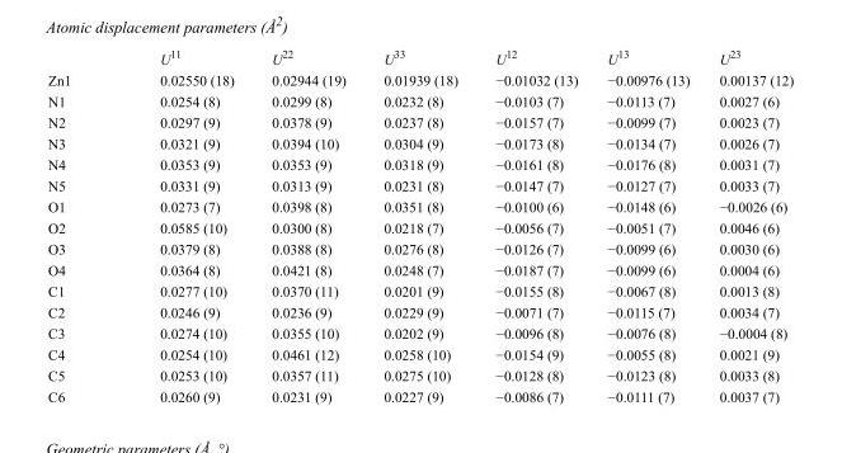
<table><thead><tr><td></td><td>U<sup>11</sup></td><td>U<sup>22</sup></td><td>U<sup>33</sup></td><td>U<sup>12</sup></td><td>U<sup>13</sup></td><td>U<sup>23</sup></td></tr></thead><tbody><tr><td>Zn1</td><td>0.02550 (18)</td><td>0.02944 (19)</td><td>0.01939 (18)</td><td>−0.01032 (13)</td><td>−0.00976 (13)</td><td>0.00137 (12)</td></tr><tr><td>N1</td><td>0.0254 (8)</td><td>0.0299 (8)</td><td>0.0232 (8)</td><td>−0.0103 (7)</td><td>−0.0113 (7)</td><td>0.0027 (6)</td></tr><tr><td>N2</td><td>0.0297 (9)</td><td>0.0378 (9)</td><td>0.0237 (8)</td><td>−0.0157 (7)</td><td>−0.0099 (7)</td><td>0.0023 (7)</td></tr><tr><td>N3</td><td>0.0321 (9)</td><td>0.0394 (10)</td><td>0.0304 (9)</td><td>−0.0173 (8)</td><td>−0.0134 (7)</td><td>0.0026 (7)</td></tr><tr><td>N4</td><td>0.0353 (9)</td><td>0.0353 (9)</td><td>0.0318 (9)</td><td>−0.0161 (8)</td><td>−0.0176 (8)</td><td>0.0031 (7)</td></tr><tr><td>N5</td><td>0.0331 (9)</td><td>0.0313 (9)</td><td>0.0231 (8)</td><td>−0.0147 (7)</td><td>−0.0127 (7)</td><td>0.0033 (7)</td></tr><tr><td>O1</td><td>0.0273 (7)</td><td>0.0398 (8)</td><td>0.0351 (8)</td><td>−0.0100 (6)</td><td>−0.0148 (6)</td><td>−0.0026 (6)</td></tr><tr><td>O2</td><td>0.0585 (10)</td><td>0.0300 (8)</td><td>0.0218 (7)</td><td>−0.0056 (7)</td><td>−0.0051 (7)</td><td>0.0046 (6)</td></tr><tr><td>O3</td><td>0.0379 (8)</td><td>0.0388 (8)</td><td>0.0276 (8)</td><td>−0.0126 (7)</td><td>−0.0099 (6)</td><td>0.0030 (6)</td></tr><tr><td>O4</td><td>0.0364 (8)</td><td>0.0421 (8)</td><td>0.0248 (7)</td><td>−0.0187 (7)</td><td>−0.0099 (6)</td><td>0.0004 (6)</td></tr><tr><td>C1</td><td>0.0277 (10)</td><td>0.0370 (11)</td><td>0.0201 (9)</td><td>−0.0155 (8)</td><td>−0.0067 (8)</td><td>0.0013 (8)</td></tr><tr><td>C2</td><td>0.0246 (9)</td><td>0.0236 (9)</td><td>0.0229 (9)</td><td>−0.0071 (7)</td><td>−0.0115 (7)</td><td>0.0034 (7)</td></tr><tr><td>C3</td><td>0.0274 (10)</td><td>0.0355 (10)</td><td>0.0202 (9)</td><td>−0.0096 (8)</td><td>−0.0076 (8)</td><td>−0.0004 (8)</td></tr><tr><td>C4</td><td>0.0254 (10)</td><td>0.0461 (12)</td><td>0.0258 (10)</td><td>−0.0154 (9)</td><td>−0.0055 (8)</td><td>0.0021 (9)</td></tr><tr><td>C5</td><td>0.0253 (10)</td><td>0.0357 (11)</td><td>0.0275 (10)</td><td>−0.0128 (8)</td><td>−0.0123 (8)</td><td>0.0033 (8)</td></tr><tr><td>C6</td><td>0.0260 (9)</td><td>0.0231 (9)</td><td>0.0227 (9)</td><td>−0.0086 (7)</td><td>−0.0111 (7)</td><td>0.0037 (7)</td></tr></tbody></table>